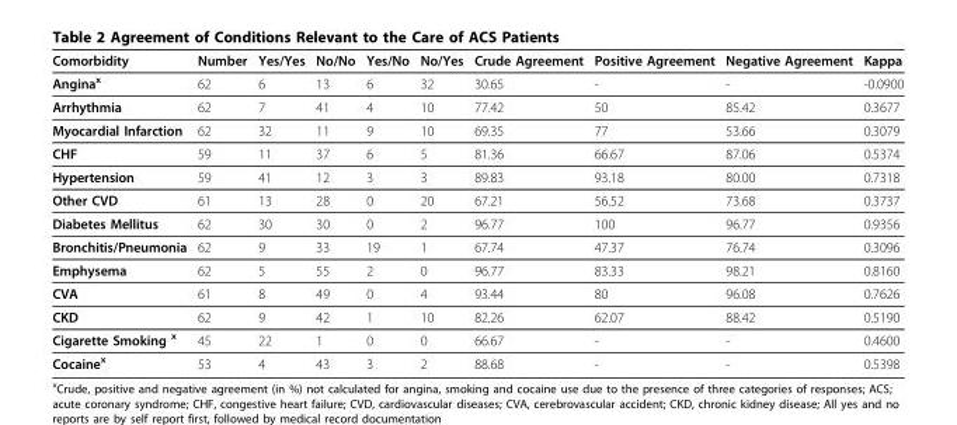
<table><thead><tr><td>Comorbidity</td><td>Number</td><td>Yes/Yes</td><td>No/No</td><td>Yes/No</td><td>No/Yes</td><td>Crude Agreement</td><td>Positive Agreement</td><td>Negative Agreement</td><td>Kappa</td></tr></thead><tbody><tr><td>Angina<sup>x</sup></td><td>62</td><td>6</td><td>13</td><td>6</td><td>32</td><td>30.65</td><td>-</td><td>-</td><td>-0.0900</td></tr><tr><td>Arrhythmia</td><td>62</td><td>7</td><td>41</td><td>4</td><td>10</td><td>77.42</td><td>50</td><td>85.42</td><td>0.3677</td></tr><tr><td>Myocardial Infarction</td><td>62</td><td>32</td><td>11</td><td>9</td><td>10</td><td>69.35</td><td>77</td><td>53.66</td><td>0.3079</td></tr><tr><td>CHF</td><td>59</td><td>11</td><td>37</td><td>6</td><td>5</td><td>81.36</td><td>66.67</td><td>87.06</td><td>0.5374</td></tr><tr><td>Hypertension</td><td>59</td><td>41</td><td>12</td><td>3</td><td>3</td><td>89.83</td><td>93.18</td><td>80.00</td><td>0.7318</td></tr><tr><td>Other CVD</td><td>61</td><td>13</td><td>28</td><td>0</td><td>20</td><td>67.21</td><td>56.52</td><td>73.68</td><td>0.3737</td></tr><tr><td>Diabetes Mellitus</td><td>62</td><td>30</td><td>30</td><td>0</td><td>2</td><td>96.77</td><td>100</td><td>96.77</td><td>0.9356</td></tr><tr><td>Bronchitis/Pneumonia</td><td>62</td><td>9</td><td>33</td><td>19</td><td>1</td><td>67.74</td><td>47.37</td><td>76.74</td><td>0.3096</td></tr><tr><td>Emphysema</td><td>62</td><td>5</td><td>55</td><td>2</td><td>0</td><td>96.77</td><td>83.33</td><td>98.21</td><td>0.8160</td></tr><tr><td>CVA</td><td>61</td><td>8</td><td>49</td><td>0</td><td>4</td><td>93.44</td><td>80</td><td>96.08</td><td>0.7626</td></tr><tr><td>CKD</td><td>62</td><td>9</td><td>42</td><td>1</td><td>10</td><td>82.26</td><td>62.07</td><td>88.42</td><td>0.5190</td></tr><tr><td>Cigarette Smoking <sup>x</sup></td><td>45</td><td>22</td><td>1</td><td>0</td><td>0</td><td>66.67</td><td>-</td><td>-</td><td>0.4600</td></tr><tr><td>Cocaine<sup>x</sup></td><td>53</td><td>4</td><td>43</td><td>3</td><td>2</td><td>88.68</td><td>-</td><td>-</td><td>0.5398</td></tr></tbody></table>